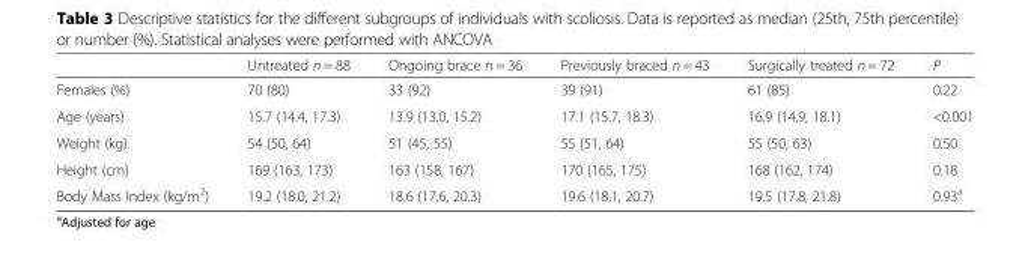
<table><thead><tr><td></td><td>Untreated n = 88</td><td>Ongoing brace n = 36</td><td>Previously braced n = 43</td><td>Surgically treated n = 72</td><td>P</td></tr></thead><tbody><tr><td>Females (%)</td><td>70 (80)</td><td>33 (92)</td><td>39 (91)</td><td>61 (85)</td><td>0.22</td></tr><tr><td>Age (years)</td><td>15.7 (14.4, 17.3)</td><td>13.9 (13.0, 15.2)</td><td>17.1 (15.7, 18.3)</td><td>16.9 (14.9, 18.1)</td><td>&lt;0.001</td></tr><tr><td>Weight (kg)</td><td>54 (50, 64)</td><td>51 (45, 55)</td><td>55 (51, 64)</td><td>55 (50, 63)</td><td>0.50</td></tr><tr><td>Height (cm)</td><td>169 (163, 173)</td><td>163 (158, 167)</td><td>170 (165, 175)</td><td>168 (162, 174)</td><td>0.18</td></tr><tr><td>Body Mass Index (kg/m<sup>2</sup>)</td><td>19.2 (18.0, 21.2)</td><td>18.6 (17.6, 20.3)</td><td>19.6 (18.1, 20.7)</td><td>19.5 (17.8, 21.8)</td><td>0.93<sup>a</sup></td></tr></tbody></table>